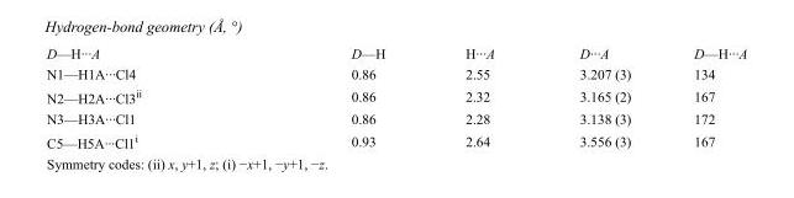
<table><tbody><tr><td>D—H···A</td><td>D—H</td><td>H···A</td><td>D···A</td><td>D—H···A</td></tr><tr><td>N1—H1A···Cl4</td><td>0.86</td><td>2.55</td><td>3.207 (3)</td><td>134</td></tr><tr><td>N2—H2A···Cl3<sup>ii</sup></td><td>0.86</td><td>2.32</td><td>3.165 (2)</td><td>167</td></tr><tr><td>N3—H3A···Cl1</td><td>0.86</td><td>2.28</td><td>3.138 (3)</td><td>172</td></tr><tr><td>C5—H5A···Cl1<sup>i</sup></td><td>0.93</td><td>2.64</td><td>3.556 (3)</td><td>167</td></tr></tbody></table>